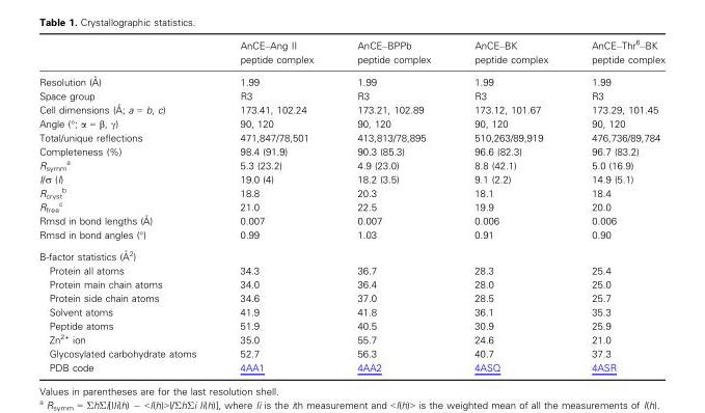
<table><thead><tr><td></td><td>AnCE–Ang II peptide complex</td><td>AnCE–BPPb peptide complex</td><td>AnCE–BK peptide complex</td><td>AnCE–Thr<sup>6</sup>–BK peptide complex</td></tr></thead><tbody><tr><td>Resolution (A˚ )</td><td>1.99</td><td>1.99</td><td>1.99</td><td>1.99</td></tr><tr><td>Space group</td><td>R3</td><td>R3</td><td>R3</td><td>R3</td></tr><tr><td>Cell dimensions (A˚ ; a = b, c)</td><td>173.41, 102.24</td><td>173.21, 102.89</td><td>173.12, 101.67</td><td>173.29, 101.45</td></tr><tr><td>Angle (°; α = β, γ)</td><td>90, 120</td><td>90, 120</td><td>90, 120</td><td>90, 120</td></tr><tr><td>Total/unique reflections</td><td>471,847/78,501</td><td>413,813/78,895</td><td>510,263/89,919</td><td>476,736/89,784</td></tr><tr><td>Completeness (%)</td><td>98.4 (91.9)</td><td>90.3 (85.3)</td><td>96.6 (82.3)</td><td>96.7 (83.2)</td></tr><tr><td>R<sub>symm</sub> <sup>a</sup></td><td>5.3 (23.2)</td><td>4.9 (23.0)</td><td>8.8 (42.1)</td><td>5.0 (16.9)</td></tr><tr><td>I/σ (I)</td><td>19.0 (4)</td><td>18.2 (3.5)</td><td>9.1 (2.2)</td><td>14.9 (5.1)</td></tr><tr><td>R<sub>cryst</sub> <sup>b</sup></td><td>18.8</td><td>20.3</td><td>18.1</td><td>18.4</td></tr><tr><td>R<sub>free</sub> <sup>c</sup></td><td>21.0</td><td>22.5</td><td>19.9</td><td>20.0</td></tr><tr><td>Rmsd in bond lengths (A˚ )</td><td>0.007</td><td>0.007</td><td>0.006</td><td>0.006</td></tr><tr><td>Rmsd in bond angles (°)</td><td>0.99</td><td>1.03</td><td>0.91</td><td>0.90</td></tr><tr><td colspan="5">B-factor statistics (A˚ 2)</td></tr><tr><td>Protein all atoms</td><td>34.3</td><td>36.7</td><td>28.3</td><td>25.4</td></tr><tr><td>Protein main chain atoms</td><td>34.0</td><td>36.4</td><td>28.0</td><td>25.0</td></tr><tr><td>Protein side chain atoms</td><td>34.6</td><td>37.0</td><td>28.5</td><td>25.7</td></tr><tr><td>Solvent atoms</td><td>41.9</td><td>41.8</td><td>36.1</td><td>35.3</td></tr><tr><td>Peptide atoms</td><td>51.9</td><td>40.5</td><td>30.9</td><td>25.9</td></tr><tr><td>Zn<sup>2+</sup> ion</td><td>35.0</td><td>55.7</td><td>24.6</td><td>21.0</td></tr><tr><td>Glycosylated carbohydrate atoms</td><td>52.7</td><td>56.3</td><td>40.7</td><td>37.3</td></tr><tr><td>PDB code</td><td>4AA1</td><td>4AA2</td><td>4ASQ</td><td>4ASR</td></tr></tbody></table>